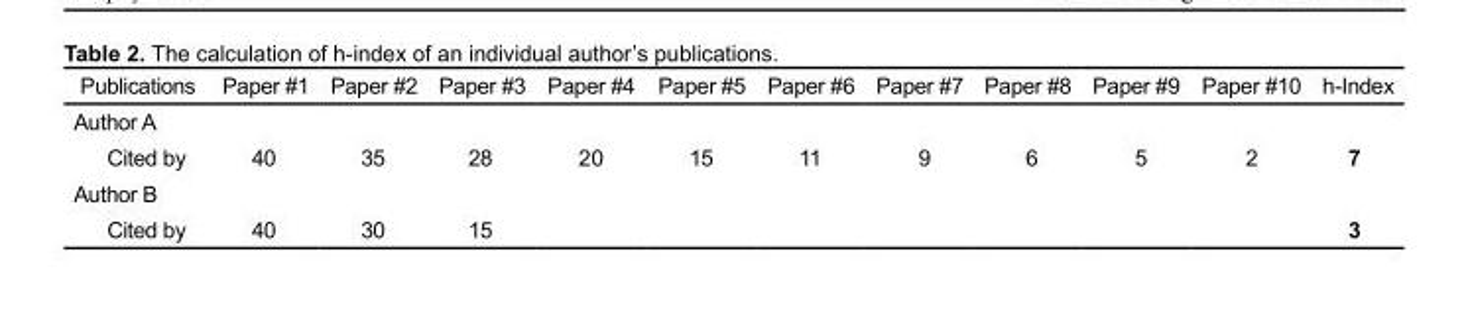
<table><thead><tr><td>Publications</td><td>Paper #1</td><td>Paper #2</td><td>Paper #3</td><td>Paper #4</td><td>Paper #5</td><td>Paper #6</td><td>Paper #7</td><td>Paper #8</td><td>Paper #9</td><td>Paper #10</td><td>h-Index</td></tr></thead><tbody><tr><td colspan="12">Author A</td></tr><tr><td>Cited by</td><td>40</td><td>35</td><td>28</td><td>20</td><td>15</td><td>11</td><td>9</td><td>6</td><td>5</td><td>2</td><td>7</td></tr><tr><td colspan="12">Author B</td></tr><tr><td>Cited by</td><td>40</td><td>30</td><td>15</td><td></td><td></td><td></td><td></td><td></td><td></td><td></td><td>3</td></tr></tbody></table>